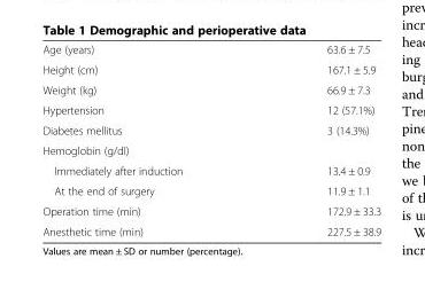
<table><tbody><tr><td>Age (years)</td><td>63.6 ± 7.5</td></tr><tr><td>Height (cm)</td><td>167.1 ± 5.9</td></tr><tr><td>Weight (kg)</td><td>66.9 ± 7.3</td></tr><tr><td>Hypertension</td><td>12 (57.1%)</td></tr><tr><td>Diabetes mellitus</td><td>3 (14.3%)</td></tr><tr><td colspan="2">Hemoglobin (g/dl)</td></tr><tr><td>Immediately after induction</td><td>13.4 ± 0.9</td></tr><tr><td>At the end of surgery</td><td>11.9 ± 1.1</td></tr><tr><td>Operation time (min)</td><td>172.9 ± 33.3</td></tr><tr><td>Anesthetic time (min)</td><td>227.5 ± 38.9</td></tr></tbody></table>